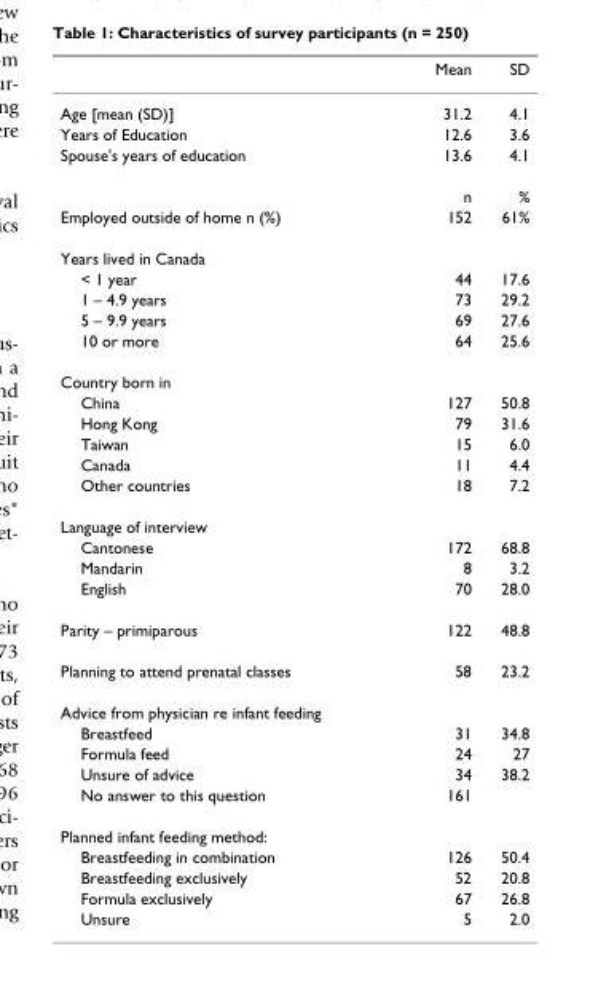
<table><thead><tr><td></td><td>Mean</td><td>SD</td></tr></thead><tbody><tr><td>Age [mean (SD)]</td><td>31.2</td><td>4.1</td></tr><tr><td>Years of Education</td><td>12.6</td><td>3.6</td></tr><tr><td rowspan="2">Spouse&#x27;s years of education</td><td>13.6</td><td>4.1</td></tr><tr><td>n</td><td>%</td></tr><tr><td>Employed outside of home n (%)</td><td>152</td><td>61%</td></tr><tr><td colspan="3">Years lived in Canada</td></tr><tr><td>&lt; 1 year</td><td>44</td><td>17.6</td></tr><tr><td>1 – 4.9 years</td><td>73</td><td>29.2</td></tr><tr><td>5 – 9.9 years</td><td>69</td><td>27.6</td></tr><tr><td>10 or more</td><td>64</td><td>25.6</td></tr><tr><td colspan="3">Country born in</td></tr><tr><td>China</td><td>127</td><td>50.8</td></tr><tr><td>Hong Kong</td><td>79</td><td>31.6</td></tr><tr><td>Taiwan</td><td>15</td><td>6.0</td></tr><tr><td>Canada</td><td>11</td><td>4.4</td></tr><tr><td>Other countries</td><td>18</td><td>7.2</td></tr><tr><td colspan="3">Language of interview</td></tr><tr><td>Cantonese</td><td>172</td><td>68.8</td></tr><tr><td>Mandarin</td><td>8</td><td>3.2</td></tr><tr><td>English</td><td>70</td><td>28.0</td></tr><tr><td>Parity – primiparous</td><td>122</td><td>48.8</td></tr><tr><td>Planning to attend prenatal classes</td><td>58</td><td>23.2</td></tr><tr><td colspan="3">Advice from physician re infant feeding</td></tr><tr><td>Breastfeed</td><td>31</td><td>34.8</td></tr><tr><td>Formula feed</td><td>24</td><td>27</td></tr><tr><td>Unsure of advice</td><td>34</td><td>38.2</td></tr><tr><td>No answer to this question</td><td>161</td><td></td></tr><tr><td colspan="3">Planned infant feeding method:</td></tr><tr><td>Breastfeeding in combination</td><td>126</td><td>50.4</td></tr><tr><td>Breastfeeding exclusively</td><td>52</td><td>20.8</td></tr><tr><td>Formula exclusively</td><td>67</td><td>26.8</td></tr><tr><td>Unsure</td><td>5</td><td>2.0</td></tr></tbody></table>